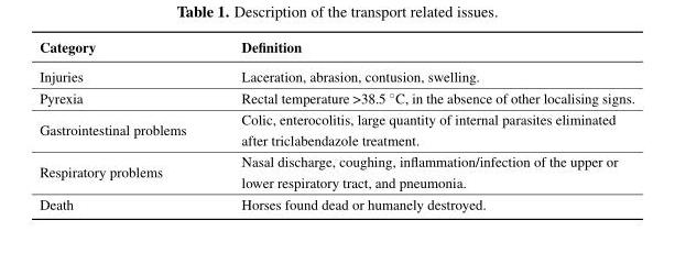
<table><thead><tr><td>Category</td><td>Definition</td></tr></thead><tbody><tr><td>Injuries</td><td>Laceration, abrasion, contusion, swelling.</td></tr><tr><td>Pyrexia</td><td>Rectal temperature &gt;38.5 ˝C, in the absence of other localising signs.</td></tr><tr><td>Gastrointestinal problems</td><td>Colic, enterocolitis, large quantity of internal parasites eliminated after triclabendazole treatment.</td></tr><tr><td>Respiratory problems</td><td>Nasal discharge, coughing, inflammation/infection of the upper or lower respiratory tract, and pneumonia.</td></tr><tr><td>Death</td><td>Horses found dead or humanely destroyed.</td></tr></tbody></table>